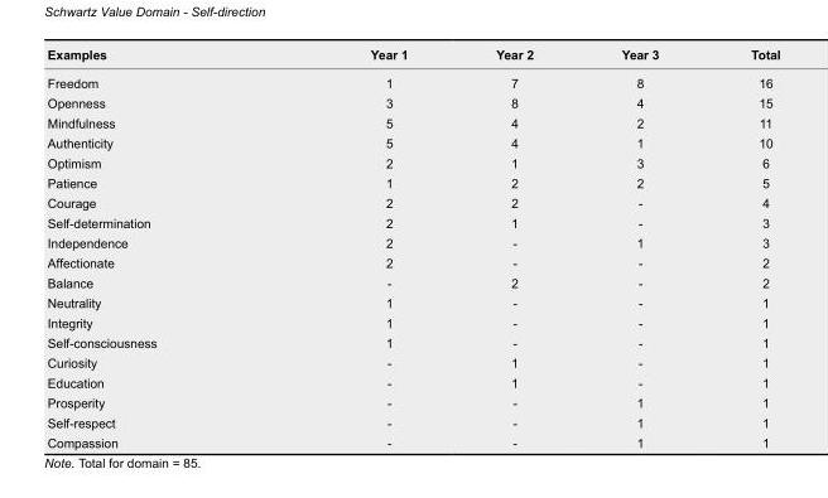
<table><thead><tr><td>Examples</td><td>Year 1</td><td>Year 2</td><td>Year 3</td><td>Total</td></tr></thead><tbody><tr><td>Freedom</td><td>1</td><td>7</td><td>8</td><td>16</td></tr><tr><td>Openness</td><td>3</td><td>8</td><td>4</td><td>15</td></tr><tr><td>Mindfulness</td><td>5</td><td>4</td><td>2</td><td>11</td></tr><tr><td>Authenticity</td><td>5</td><td>4</td><td>1</td><td>10</td></tr><tr><td>Optimism</td><td>2</td><td>1</td><td>3</td><td>6</td></tr><tr><td>Patience</td><td>1</td><td>2</td><td>2</td><td>5</td></tr><tr><td>Courage</td><td>2</td><td>2</td><td>-</td><td>4</td></tr><tr><td>Self-determination</td><td>2</td><td>1</td><td>-</td><td>3</td></tr><tr><td>Independence</td><td>2</td><td>-</td><td>1</td><td>3</td></tr><tr><td>Affectionate</td><td>2</td><td>-</td><td>-</td><td>2</td></tr><tr><td>Balance</td><td>-</td><td>2</td><td>-</td><td>2</td></tr><tr><td>Neutrality</td><td>1</td><td>-</td><td>-</td><td>1</td></tr><tr><td>Integrity</td><td>1</td><td>-</td><td>-</td><td>1</td></tr><tr><td>Self-consciousness</td><td>1</td><td>-</td><td>-</td><td>1</td></tr><tr><td>Curiosity</td><td>-</td><td>1</td><td>-</td><td>1</td></tr><tr><td>Education</td><td>-</td><td>1</td><td>-</td><td>1</td></tr><tr><td>Prosperity</td><td>-</td><td>-</td><td>1</td><td>1</td></tr><tr><td>Self-respect</td><td>-</td><td>-</td><td>1</td><td>1</td></tr><tr><td>Compassion</td><td>-</td><td>-</td><td>1</td><td>1</td></tr></tbody></table>